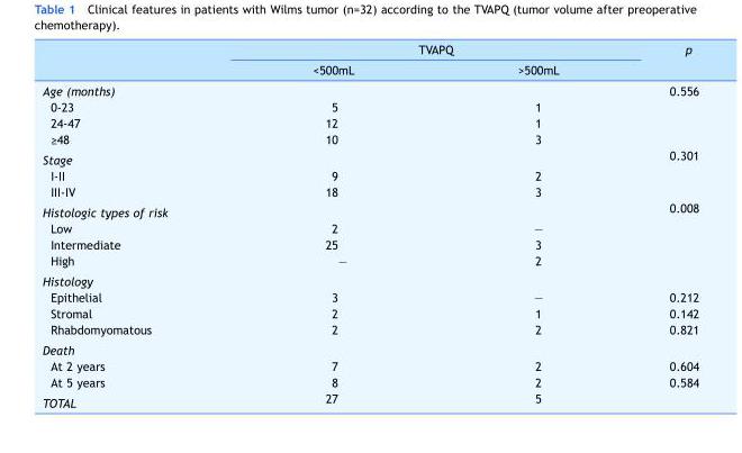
<table><thead><tr><td rowspan="2"></td><td colspan="2">TVAPQ</td><td rowspan="2">p</td></tr><tr><td>&lt;500mL</td><td>&gt;500mL</td></tr></thead><tbody><tr><td>Age (months)</td><td></td><td></td><td>0.556</td></tr><tr><td>0-23</td><td>5</td><td>1</td><td></td></tr><tr><td>24-47</td><td>12</td><td>1</td><td></td></tr><tr><td>≥48</td><td>10</td><td>3</td><td></td></tr><tr><td>Stage</td><td></td><td></td><td>0.301</td></tr><tr><td>I-II</td><td>9</td><td>2</td><td></td></tr><tr><td>III-IV</td><td>18</td><td>3</td><td></td></tr><tr><td>Histologic types of risk</td><td></td><td></td><td>0.008</td></tr><tr><td>Low</td><td>2</td><td>—</td><td></td></tr><tr><td>Intermediate</td><td>25</td><td>3</td><td></td></tr><tr><td>High</td><td>—</td><td>2</td><td></td></tr><tr><td colspan="4">Histology</td></tr><tr><td>Epithelial</td><td>3</td><td>—</td><td>0.212</td></tr><tr><td>Stromal</td><td>2</td><td>1</td><td>0.142</td></tr><tr><td>Rhabdomyomatous</td><td>2</td><td>2</td><td>0.821</td></tr><tr><td colspan="4">Death</td></tr><tr><td>At 2 years</td><td>7</td><td>2</td><td>0.604</td></tr><tr><td>At 5 years</td><td>8</td><td>2</td><td>0.584</td></tr><tr><td>TOTAL</td><td>27</td><td>5</td><td></td></tr></tbody></table>